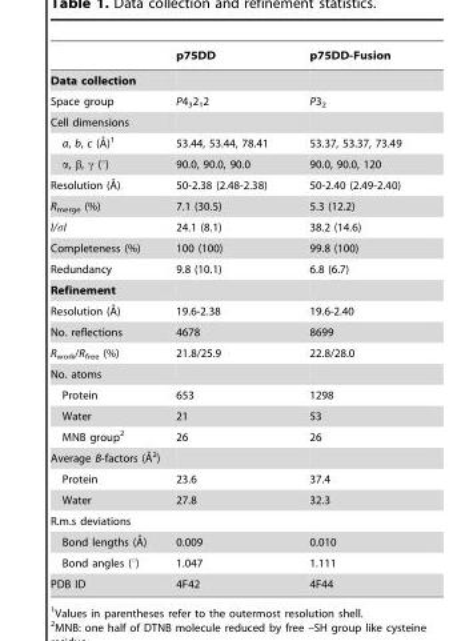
<table><thead><tr><td></td><td>p75DD</td><td>p75DD-Fusion</td></tr></thead><tbody><tr><td colspan="3">Data collection</td></tr><tr><td>Space group</td><td>P4<sub>3</sub>2<sub>1</sub>2</td><td>P3<sub>2</sub></td></tr><tr><td colspan="3">Cell dimensions</td></tr><tr><td>a, b, c (A˚)1</td><td>53.44, 53.44, 78.41</td><td>53.37, 53.37, 73.49</td></tr><tr><td>α, β, γ (°)</td><td>90.0, 90.0, 90.0</td><td>90.0, 90.0, 120</td></tr><tr><td>Resolution (A˚)</td><td>50-2.38 (2.48-2.38)</td><td>50-2.40 (2.49-2.40)</td></tr><tr><td>R<sub>merge</sub> (%)</td><td>7.1 (30.5)</td><td>5.3 (12.2)</td></tr><tr><td>I/σI</td><td>24.1 (8.1)</td><td>38.2 (14.6)</td></tr><tr><td>Completeness (%)</td><td>100 (100)</td><td>99.8 (100)</td></tr><tr><td>Redundancy</td><td>9.8 (10.1)</td><td>6.8 (6.7)</td></tr><tr><td colspan="3">Refinement</td></tr><tr><td>Resolution (A˚)</td><td>19.6-2.38</td><td>19.6-2.40</td></tr><tr><td>No. reflections</td><td>4678</td><td>8699</td></tr><tr><td>R<sub>work</sub>/R<sub>free</sub> (%)</td><td>21.8/25.9</td><td>22.8/28.0</td></tr><tr><td colspan="3">No. atoms</td></tr><tr><td>Protein</td><td>653</td><td>1298</td></tr><tr><td>Water</td><td>21</td><td>53</td></tr><tr><td>MNB group<sup>2</sup></td><td>26</td><td>26</td></tr><tr><td colspan="3">Average B-factors (A˚2)</td></tr><tr><td>Protein</td><td>23.6</td><td>37.4</td></tr><tr><td>Water</td><td>27.8</td><td>32.3</td></tr><tr><td colspan="3">R.m.s deviations</td></tr><tr><td>Bond lengths (A˚)</td><td>0.009</td><td>0.010</td></tr><tr><td>Bond angles (°)</td><td>1.047</td><td>1.111</td></tr><tr><td>PDB ID</td><td>4F42</td><td>4F44</td></tr></tbody></table>